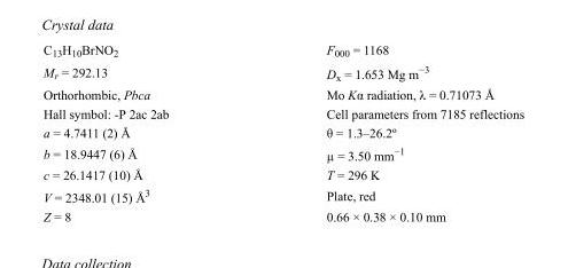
<table><tbody><tr><td>C<sub>13</sub>H<sub>10</sub>BrNO<sub>2</sub></td><td>F000 = 1168</td></tr><tr><td>M<sub>r</sub> = 292.13</td><td>D<sub>x</sub> = 1.653 Mg m<sup>−3</sup></td></tr><tr><td>Orthorhombic, Pbca</td><td>Mo Kα radiation, λ = 0.71073 Å</td></tr><tr><td>Hall symbol: -P 2ac 2ab</td><td>Cell parameters from 7185 reflections</td></tr><tr><td>a = 4.7411 (2) Å</td><td>θ = 1.3–26.2º</td></tr><tr><td>b = 18.9447 (6) Å</td><td>µ = 3.50 mm<sup>−1</sup></td></tr><tr><td>c = 26.1417 (10) Å</td><td>T = 296 K</td></tr><tr><td>V = 2348.01 (15) Å<sup>3</sup></td><td>Plate, red</td></tr><tr><td>Z = 8</td><td>0.66 × 0.38 × 0.10 mm</td></tr></tbody></table>